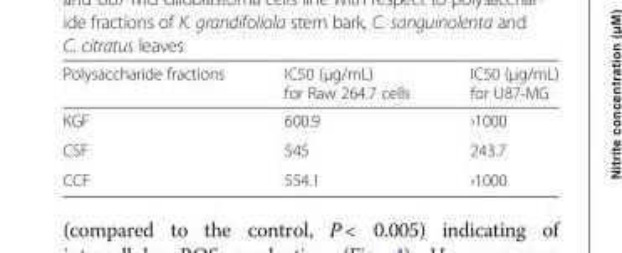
<table><thead><tr><td>Polysaccharide fractions</td><td>IC50 (μg/mL) for Raw 264.7 cells</td><td>IC50 (μg/mL) for U87-MG</td></tr></thead><tbody><tr><td>KGF</td><td>600.9</td><td>›1000</td></tr><tr><td>CSF</td><td>545</td><td>243.7</td></tr><tr><td>CCF</td><td>554.1</td><td>›1000</td></tr></tbody></table>